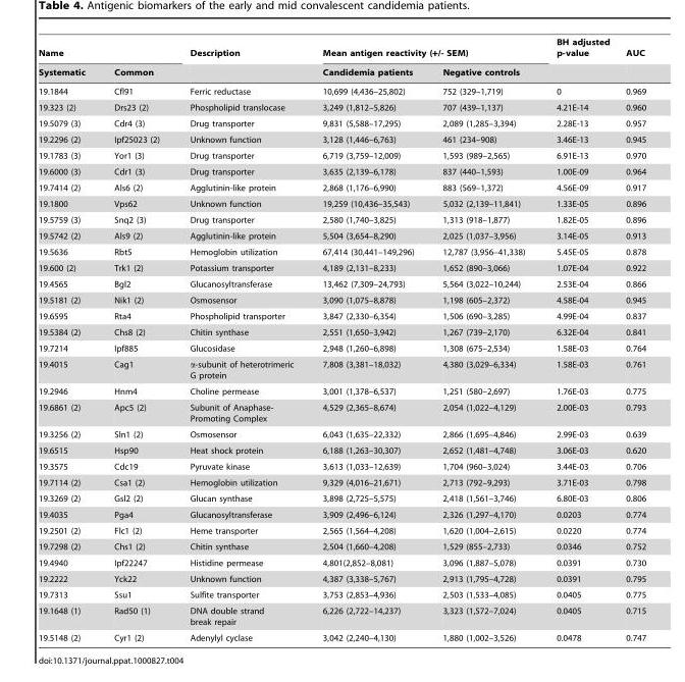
<table><thead><tr><td colspan="2">Name</td><td rowspan="2">Description</td><td colspan="2">Mean antigen reactivity (+/- SEM)</td><td rowspan="2">BH adjusted p-value</td><td rowspan="2">AUC</td></tr><tr><td>Systematic</td><td>Common</td><td>Candidemia patients</td><td>Negative controls</td></tr></thead><tbody><tr><td>19.1844</td><td>Cfl91</td><td>Ferric reductase</td><td>10,699 (4,436–25,802)</td><td>752 (329–1,719)</td><td>0</td><td>0.969</td></tr><tr><td>19.323 (2)</td><td>Drs23 (2)</td><td>Phospholipid translocase</td><td>3,249 (1,812–5,826)</td><td>707 (439–1,137)</td><td>4.21E-14</td><td>0.960</td></tr><tr><td>19.5079 (3)</td><td>Cdr4 (3)</td><td>Drug transporter</td><td>9,831 (5,588–17,295)</td><td>2,089 (1,285–3,394)</td><td>2.28E-13</td><td>0.957</td></tr><tr><td>19.2296 (2)</td><td>Ipf25023 (2)</td><td>Unknown function</td><td>3,128 (1,446–6,763)</td><td>461 (234–908)</td><td>3.46E-13</td><td>0.945</td></tr><tr><td>19.1783 (3)</td><td>Yor1 (3)</td><td>Drug transporter</td><td>6,719 (3,759–12,009)</td><td>1,593 (989–2,565)</td><td>6.91E-13</td><td>0.970</td></tr><tr><td>19.6000 (3)</td><td>Cdr1 (3)</td><td>Drug transporter</td><td>3,635 (2,139–6,178)</td><td>837 (440–1,593)</td><td>1.00E-09</td><td>0.964</td></tr><tr><td>19.7414 (2)</td><td>Als6 (2)</td><td>Agglutinin-like protein</td><td>2,868 (1,176–6,990)</td><td>883 (569–1,372)</td><td>4.56E-09</td><td>0.917</td></tr><tr><td>19.1800</td><td>Vps62</td><td>Unknown function</td><td>19,259 (10,436–35,543)</td><td>5,032 (2,139–11,841)</td><td>1.33E-05</td><td>0.896</td></tr><tr><td>19.5759 (3)</td><td>Snq2 (3)</td><td>Drug transporter</td><td>2,580 (1,740–3,825)</td><td>1,313 (918–1,877)</td><td>1.82E-05</td><td>0.896</td></tr><tr><td>19.5742 (2)</td><td>Als9 (2)</td><td>Agglutinin-like protein</td><td>5,504 (3,654–8,290)</td><td>2,025 (1,037–3,956)</td><td>3.14E-05</td><td>0.913</td></tr><tr><td>19.5636</td><td>Rbt5</td><td>Hemoglobin utilization</td><td>67,414 (30,441–149,296)</td><td>12,787 (3,956–41,338)</td><td>5.45E-05</td><td>0.878</td></tr><tr><td>19.600 (2)</td><td>Trk1 (2)</td><td>Potassium transporter</td><td>4,189 (2,131–8,233)</td><td>1,652 (890–3,066)</td><td>1.07E-04</td><td>0.922</td></tr><tr><td>19.4565</td><td>Bgl2</td><td>Glucanosyltransferase</td><td>13,462 (7,309–24,793)</td><td>5,564 (3,022–10,244)</td><td>2.53E-04</td><td>0.866</td></tr><tr><td>19.5181 (2)</td><td>Nik1 (2)</td><td>Osmosensor</td><td>3,090 (1,075–8,878)</td><td>1,198 (605–2,372)</td><td>4.58E-04</td><td>0.945</td></tr><tr><td>19.6595</td><td>Rta4</td><td>Phospholipid transporter</td><td>3,847 (2,330–6,354)</td><td>1,506 (690–3,285)</td><td>4.99E-04</td><td>0.837</td></tr><tr><td>19.5384 (2)</td><td>Chs8 (2)</td><td>Chitin synthase</td><td>2,551 (1,650–3,942)</td><td>1,267 (739–2,170)</td><td>6.32E-04</td><td>0.841</td></tr><tr><td>19.7214</td><td>Ipf885</td><td>Glucosidase</td><td>2,948 (1,260–6,898)</td><td>1,308 (675–2,534)</td><td>1.58E-03</td><td>0.764</td></tr><tr><td>19.4015</td><td>Cag1</td><td>α-subunit of heterotrimeric G protein</td><td>7,808 (3,381–18,032)</td><td>4,380 (3,029–6,334)</td><td>1.58E-03</td><td>0.761</td></tr><tr><td>19.2946</td><td>Hnm4</td><td>Choline permease</td><td>3,001 (1,378–6,537)</td><td>1,251 (580–2,697)</td><td>1.76E-03</td><td>0.775</td></tr><tr><td>19.6861 (2)</td><td>Apc5 (2)</td><td>Subunit of Anaphase- Promoting Complex</td><td>4,529 (2,365–8,674)</td><td>2,054 (1,022–4,129)</td><td>2.00E-03</td><td>0.793</td></tr><tr><td>19.3256 (2)</td><td>Sln1 (2)</td><td>Osmosensor</td><td>6,043 (1,635–22,332)</td><td>2,866 (1,695–4,846)</td><td>2.99E-03</td><td>0.639</td></tr><tr><td>19.6515</td><td>Hsp90</td><td>Heat shock protein</td><td>6,188 (1,263–30,307)</td><td>2,652 (1,481–4,748)</td><td>3.06E-03</td><td>0.620</td></tr><tr><td>19.3575</td><td>Cdc19</td><td>Pyruvate kinase</td><td>3,613 (1,033–12,639)</td><td>1,704 (960–3,024)</td><td>3.44E-03</td><td>0.706</td></tr><tr><td>19.7114 (2)</td><td>Csa1 (2)</td><td>Hemoglobin utilization</td><td>9,329 (4,016–21,671)</td><td>2,713 (792–9,293)</td><td>3.71E-03</td><td>0.798</td></tr><tr><td>19.3269 (2)</td><td>Gsl2 (2)</td><td>Glucan synthase</td><td>3,898 (2,725–5,575)</td><td>2,418 (1,561–3,746)</td><td>6.80E-03</td><td>0.806</td></tr><tr><td>19.4035</td><td>Pga4</td><td>Glucanosyltransferase</td><td>3,909 (2,496–6,124)</td><td>2,326 (1,297–4,170)</td><td>0.0203</td><td>0.774</td></tr><tr><td>19.2501 (2)</td><td>Flc1 (2)</td><td>Heme transporter</td><td>2,565 (1,564–4,208)</td><td>1,620 (1,004–2,615)</td><td>0.0220</td><td>0.774</td></tr><tr><td>19.7298 (2)</td><td>Chs1 (2)</td><td>Chitin synthase</td><td>2,504 (1,660–4,208)</td><td>1,529 (855–2,733)</td><td>0.0346</td><td>0.752</td></tr><tr><td>19.4940</td><td>Ipf22247</td><td>Histidine permease</td><td>4,801(2,852–8,081)</td><td>3,096 (1,887–5,078)</td><td>0.0391</td><td>0.730</td></tr><tr><td>19.2222</td><td>Yck22</td><td>Unknown function</td><td>4,387 (3,338–5,767)</td><td>2,913 (1,795–4,728)</td><td>0.0391</td><td>0.795</td></tr><tr><td>19.7313</td><td>Ssu1</td><td>Sulfite transporter</td><td>3,753 (2,853–4,936)</td><td>2,503 (1,533–4,085)</td><td>0.0405</td><td>0.775</td></tr><tr><td>19.1648 (1)</td><td>Rad50 (1)</td><td>DNA double strand break repair</td><td>6,226 (2,722–14,237)</td><td>3,323 (1,572–7,024)</td><td>0.0405</td><td>0.715</td></tr><tr><td>19.5148 (2)</td><td>Cyr1 (2)</td><td>Adenylyl cyclase</td><td>3,042 (2,240–4,130)</td><td>1,880 (1,002–3,526)</td><td>0.0478</td><td>0.747</td></tr></tbody></table>